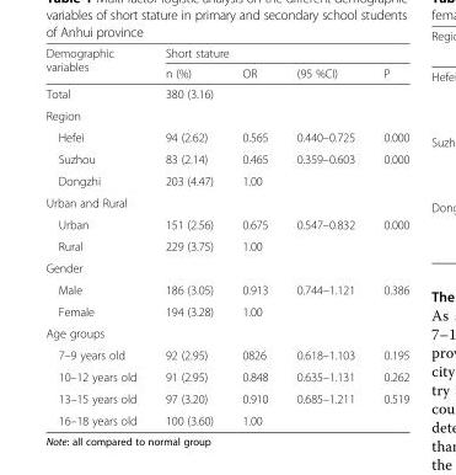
<table><thead><tr><td rowspan="2">Demographic variables</td><td colspan="4">Short stature</td></tr><tr><td>n (%)</td><td>OR</td><td>(95 %CI)</td><td>P</td></tr></thead><tbody><tr><td>Total</td><td>380 (3.16)</td><td></td><td></td><td></td></tr><tr><td colspan="5">Region</td></tr><tr><td>Hefei</td><td>94 (2.62)</td><td>0.565</td><td>0.440–0.725</td><td>0.000</td></tr><tr><td>Suzhou</td><td>83 (2.14)</td><td>0.465</td><td>0.359–0.603</td><td>0.000</td></tr><tr><td>Dongzhi</td><td>203 (4.47)</td><td>1.00</td><td></td><td></td></tr><tr><td colspan="5">Urban and Rural</td></tr><tr><td>Urban</td><td>151 (2.56)</td><td>0.675</td><td>0.547–0.832</td><td>0.000</td></tr><tr><td>Rural</td><td>229 (3.75)</td><td>1.00</td><td></td><td></td></tr><tr><td colspan="5">Gender</td></tr><tr><td>Male</td><td>186 (3.05)</td><td>0.913</td><td>0.744–1.121</td><td>0.386</td></tr><tr><td>Female</td><td>194 (3.28)</td><td>1.00</td><td></td><td></td></tr><tr><td colspan="5">Age groups</td></tr><tr><td>7–9 years old</td><td>92 (2.95)</td><td>0826</td><td>0.618–1.103</td><td>0.195</td></tr><tr><td>10–12 years old</td><td>91 (2.95)</td><td>0.848</td><td>0.635–1.131</td><td>0.262</td></tr><tr><td>13–15 years old</td><td>97 (3.20)</td><td>0.910</td><td>0.685–1.211</td><td>0.519</td></tr><tr><td>16–18 years old</td><td>100 (3.60)</td><td>1.00</td><td></td><td></td></tr></tbody></table>